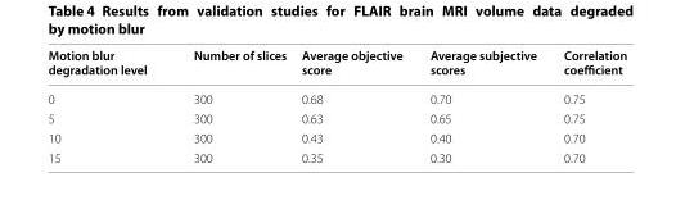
<table><thead><tr><td>Motion blur degradation level</td><td>Number of slices</td><td>Average objective score</td><td>Average subjective scores</td><td>Correlation coefficient</td></tr></thead><tbody><tr><td>0</td><td>300</td><td>0.68</td><td>0.70</td><td>0.75</td></tr><tr><td>5</td><td>300</td><td>0.63</td><td>0.65</td><td>0.75</td></tr><tr><td>10</td><td>300</td><td>0.43</td><td>0.40</td><td>0.70</td></tr><tr><td>15</td><td>300</td><td>0.35</td><td>0.30</td><td>0.70</td></tr></tbody></table>